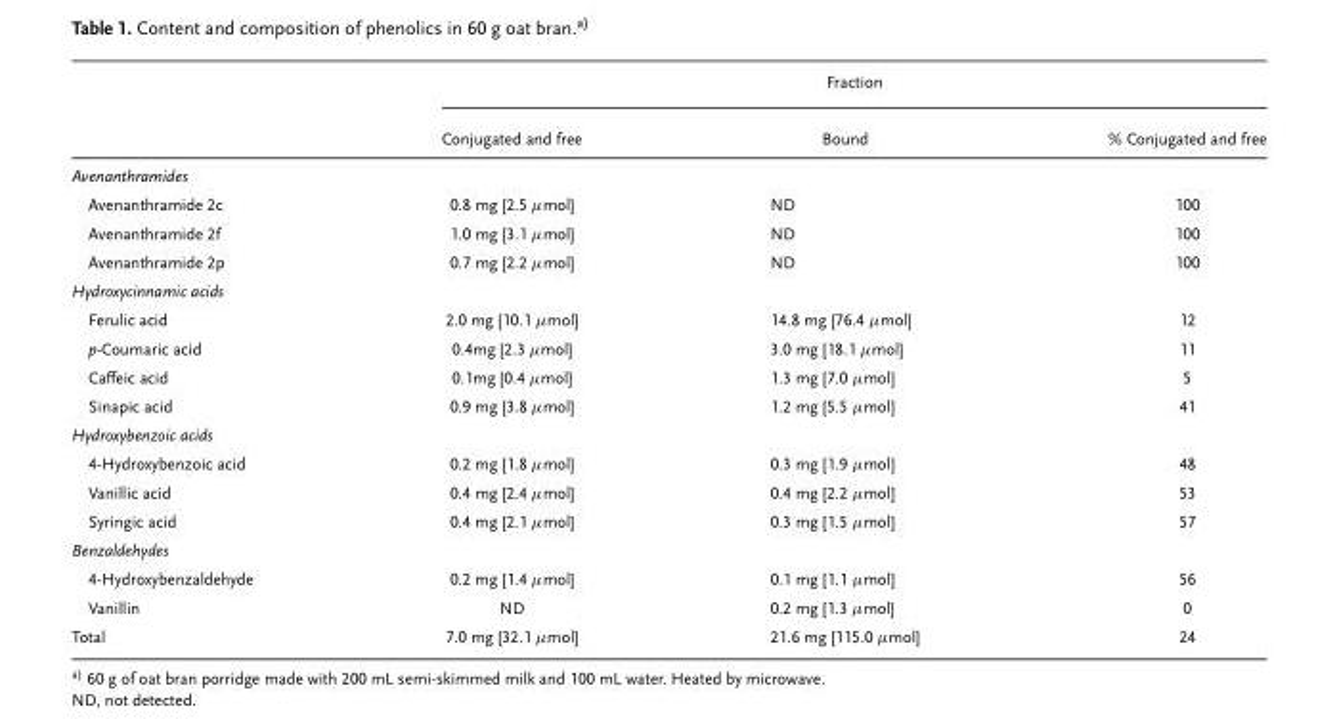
<table><thead><tr><td rowspan="2"></td><td colspan="3">Fraction</td></tr><tr><td>Conjugated and free</td><td>Bound</td><td>% Conjugated and free</td></tr></thead><tbody><tr><td colspan="4">Avenanthramides</td></tr><tr><td>Avenanthramide 2c</td><td>0.8 mg [2.5 μmol]</td><td>ND</td><td>100</td></tr><tr><td>Avenanthramide 2f</td><td>1.0 mg [3.1 μmol]</td><td>ND</td><td>100</td></tr><tr><td>Avenanthramide 2p</td><td>0.7 mg [2.2 μmol]</td><td>ND</td><td>100</td></tr><tr><td colspan="4">Hydroxycinnamic acids</td></tr><tr><td>Ferulic acid</td><td>2.0 mg [10.1 μmol]</td><td>14.8 mg [76.4 μmol]</td><td>12</td></tr><tr><td>p-Coumaric acid</td><td>0.4mg [2.3 μmol]</td><td>3.0 mg [18.1 μmol]</td><td>11</td></tr><tr><td>Caffeic acid</td><td>0.1mg [0.4 μmol]</td><td>1.3 mg [7.0 μmol]</td><td>5</td></tr><tr><td>Sinapic acid</td><td>0.9 mg [3.8 μmol]</td><td>1.2 mg [5.5 μmol]</td><td>41</td></tr><tr><td colspan="4">Hydroxybenzoic acids</td></tr><tr><td>4-Hydroxybenzoic acid</td><td>0.2 mg [1.8 μmol]</td><td>0.3 mg [1.9 μmol]</td><td>48</td></tr><tr><td>Vanillic acid</td><td>0.4 mg [2.4 μmol]</td><td>0.4 mg [2.2 μmol]</td><td>53</td></tr><tr><td>Syringic acid</td><td>0.4 mg [2.1 μmol]</td><td>0.3 mg [1.5 μmol]</td><td>57</td></tr><tr><td colspan="4">Benzaldehydes</td></tr><tr><td>4-Hydroxybenzaldehyde</td><td>0.2 mg [1.4 μmol]</td><td>0.1 mg [1.1 μmol]</td><td>56</td></tr><tr><td>Vanillin</td><td>ND</td><td>0.2 mg [1.3 μmol]</td><td>0</td></tr><tr><td>Total</td><td>7.0 mg [32.1 μmol]</td><td>21.6 mg [115.0 μmol]</td><td>24</td></tr></tbody></table>